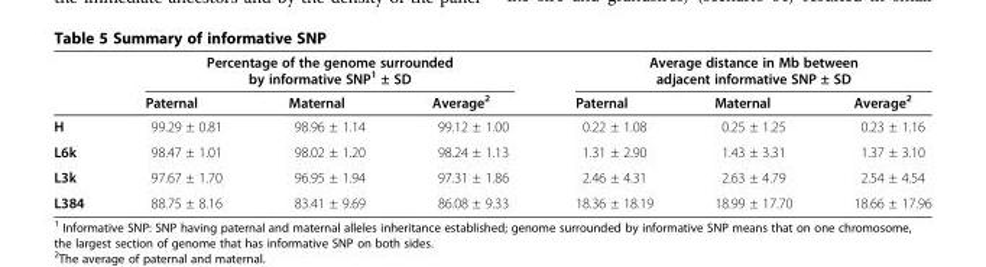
<table><thead><tr><td rowspan="2"></td><td colspan="3">Percentage of the genome surrounded by informative SNP<sup>1</sup> ± SD</td><td colspan="3">Average distance in Mb between adjacent informative SNP ± SD</td></tr><tr><td>Paternal</td><td>Maternal</td><td>Average<sup>2</sup></td><td>Paternal</td><td>Maternal</td><td>Average<sup>2</sup></td></tr></thead><tbody><tr><td>H</td><td>99.29 ± 0.81</td><td>98.96 ± 1.14</td><td>99.12 ± 1.00</td><td>0.22 ± 1.08</td><td>0.25 ± 1.25</td><td>0.23 ± 1.16</td></tr><tr><td>L6k</td><td>98.47 ± 1.01</td><td>98.02 ± 1.20</td><td>98.24 ± 1.13</td><td>1.31 ± 2.90</td><td>1.43 ± 3.31</td><td>1.37 ± 3.10</td></tr><tr><td>L3k</td><td>97.67 ± 1.70</td><td>96.95 ± 1.94</td><td>97.31 ± 1.86</td><td>2.46 ± 4.31</td><td>2.63 ± 4.79</td><td>2.54 ± 4.54</td></tr><tr><td>L384</td><td>88.75 ± 8.16</td><td>83.41 ± 9.69</td><td>86.08 ± 9.33</td><td>18.36 ± 18.19</td><td>18.99 ± 17.70</td><td>18.66 ± 17.96</td></tr></tbody></table>